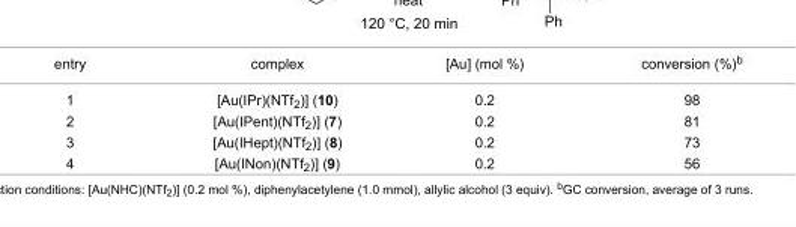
<table><tbody><tr><td>entry</td><td>complex</td><td>[Au] (mol %)</td><td>conversion (%)<sup>b</sup></td></tr><tr><td>1</td><td>[Au(IPr)(NTf<sub>2</sub>)] (10)</td><td>0.2</td><td>98</td></tr><tr><td>2</td><td>[Au(IPent)(NTf<sub>2</sub>)] (7)</td><td>0.2</td><td>81</td></tr><tr><td>3</td><td>[Au(IHept)(NTf<sub>2</sub>)] (8)</td><td>0.2</td><td>73</td></tr><tr><td>4</td><td>[Au(INon)(NTf<sub>2</sub>)] (9)</td><td>0.2</td><td>56</td></tr></tbody></table>